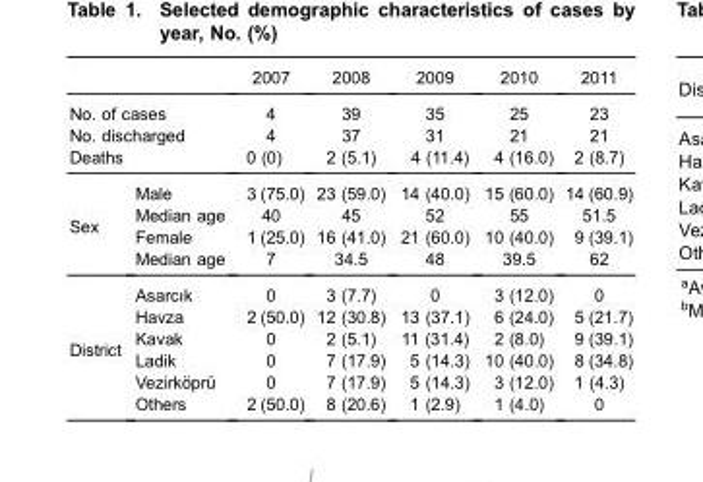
<table><thead><tr><td></td><td></td><td>2007</td><td>2008</td><td>2009</td><td>2010</td><td>2011</td></tr></thead><tbody><tr><td colspan="2">No. of cases</td><td>4</td><td>39</td><td>35</td><td>25</td><td>23</td></tr><tr><td colspan="2">No. discharged</td><td>4</td><td>37</td><td>31</td><td>21</td><td>21</td></tr><tr><td colspan="2">Deaths</td><td>0 (0)</td><td>2 (5.1)</td><td>4 (11.4)</td><td>4 (16.0)</td><td>2 (8.7)</td></tr><tr><td rowspan="4">Sex</td><td>Male</td><td>3 (75.0)</td><td>23 (59.0)</td><td>14 (40.0)</td><td>15 (60.0)</td><td>14 (60.9)</td></tr><tr><td>Median age</td><td>40</td><td>45</td><td>52</td><td>55</td><td>51.5</td></tr><tr><td>Female</td><td>1 (25.0)</td><td>16 (41.0)</td><td>21 (60.0)</td><td>10 (40.0)</td><td>9 (39.1)</td></tr><tr><td>Median age</td><td>7</td><td>34.5</td><td>48</td><td>39.5</td><td>62</td></tr><tr><td rowspan="6">District</td><td>Asarcık</td><td>0</td><td>3 (7.7)</td><td>0</td><td>3 (12.0)</td><td>0</td></tr><tr><td>Havza</td><td>2 (50.0)</td><td>12 (30.8)</td><td>13 (37.1)</td><td>6 (24.0)</td><td>5 (21.7)</td></tr><tr><td>Kavak</td><td>0</td><td>2 (5.1)</td><td>11 (31.4)</td><td>2 (8.0)</td><td>9 (39.1)</td></tr><tr><td>Ladik</td><td>0</td><td>7 (17.9)</td><td>5 (14.3)</td><td>10 (40.0)</td><td>8 (34.8)</td></tr><tr><td>Vezirköprü</td><td>0</td><td>7 (17.9)</td><td>5 (14.3)</td><td>3 (12.0)</td><td>1 (4.3)</td></tr><tr><td>Others</td><td>2 (50.0)</td><td>8 (20.6)</td><td>1 (2.9)</td><td>1 (4.0)</td><td>0</td></tr></tbody></table>